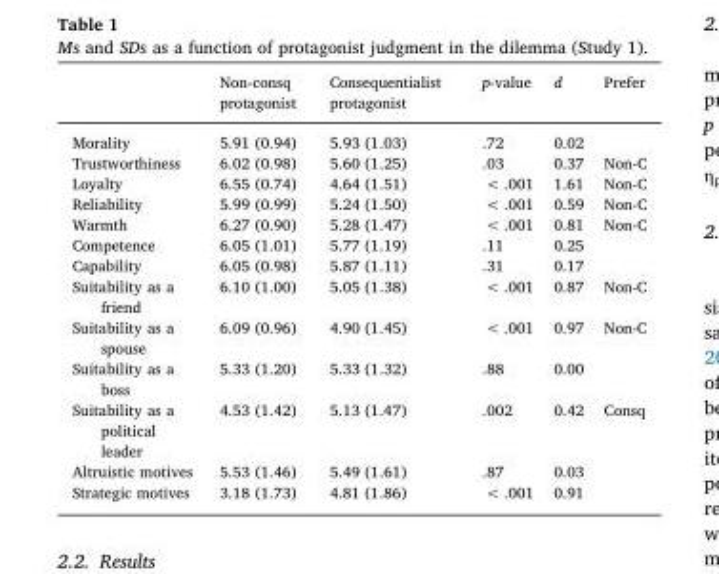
<table><thead><tr><td></td><td>Non-consq protagonist</td><td>Consequentialist protagonist</td><td>p-value</td><td>d</td><td>Prefer</td></tr></thead><tbody><tr><td>Morality</td><td>5.91 (0.94)</td><td>5.93 (1.03)</td><td>.72</td><td>0.02</td><td></td></tr><tr><td>Trustworthiness</td><td>6.02 (0.98)</td><td>5.60 (1.25)</td><td>.03</td><td>0.37</td><td>Non-C</td></tr><tr><td>Loyalty</td><td>6.55 (0.74)</td><td>4.64 (1.51)</td><td>&lt; .001</td><td>1.61</td><td>Non-C</td></tr><tr><td>Reliability</td><td>5.99 (0.99)</td><td>5.24 (1.50)</td><td>&lt; .001</td><td>0.59</td><td>Non-C</td></tr><tr><td>Warmth</td><td>6.27 (0.90)</td><td>5.28 (1.47)</td><td>&lt; .001</td><td>0.81</td><td>Non-C</td></tr><tr><td>Competence</td><td>6.05 (1.01)</td><td>5.77 (1.19)</td><td>.11</td><td>0.25</td><td></td></tr><tr><td>Capability</td><td>6.05 (0.98)</td><td>5.87 (1.11)</td><td>.31</td><td>0.17</td><td></td></tr><tr><td>Suitability as a friend</td><td>6.10 (1.00)</td><td>5.05 (1.38)</td><td>&lt; .001</td><td>0.87</td><td>Non-C</td></tr><tr><td>Suitability as a spouse</td><td>6.09 (0.96)</td><td>4.90 (1.45)</td><td>&lt; .001</td><td>0.97</td><td>Non-C</td></tr><tr><td>Suitability as a boss</td><td>5.33 (1.20)</td><td>5.33 (1.32)</td><td>.88</td><td>0.00</td><td></td></tr><tr><td>Suitability as a political leader</td><td>4.53 (1.42)</td><td>5.13 (1.47)</td><td>.002</td><td>0.42</td><td>Consq</td></tr><tr><td>Altruistic motives</td><td>5.53 (1.46)</td><td>5.49 (1.61)</td><td>.87</td><td>0.03</td><td></td></tr><tr><td>Strategic motives</td><td>3.18 (1.73)</td><td>4.81 (1.86)</td><td>&lt; .001</td><td>0.91</td><td></td></tr></tbody></table>